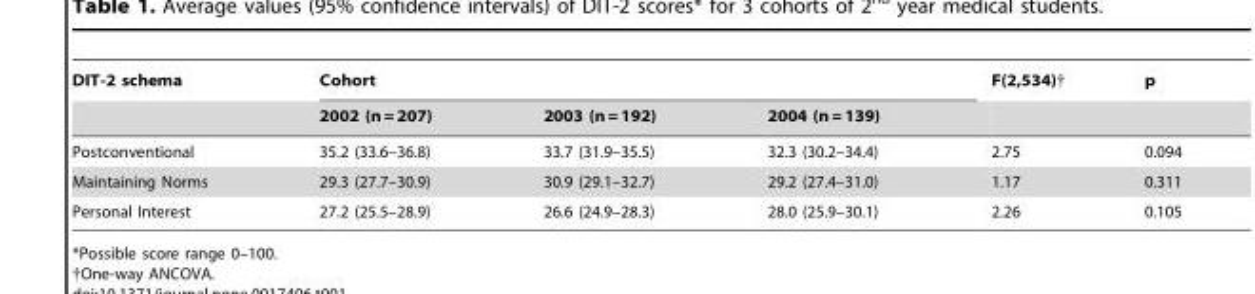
<table><thead><tr><td rowspan="2">DIT-2 schema</td><td colspan="3">Cohort</td><td rowspan="2">F(2,534)†</td><td rowspan="2">p</td></tr><tr><td>2002 (n = 207)</td><td>2003 (n = 192)</td><td>2004 (n = 139)</td></tr></thead><tbody><tr><td>Postconventional</td><td>35.2 (33.6–36.8)</td><td>33.7 (31.9–35.5)</td><td>32.3 (30.2–34.4)</td><td>2.75</td><td>0.094</td></tr><tr><td>Maintaining Norms</td><td>29.3 (27.7–30.9)</td><td>30.9 (29.1–32.7)</td><td>29.2 (27.4–31.0)</td><td>1.17</td><td>0.311</td></tr><tr><td>Personal Interest</td><td>27.2 (25.5–28.9)</td><td>26.6 (24.9–28.3)</td><td>28.0 (25.9–30.1)</td><td>2.26</td><td>0.105</td></tr></tbody></table>